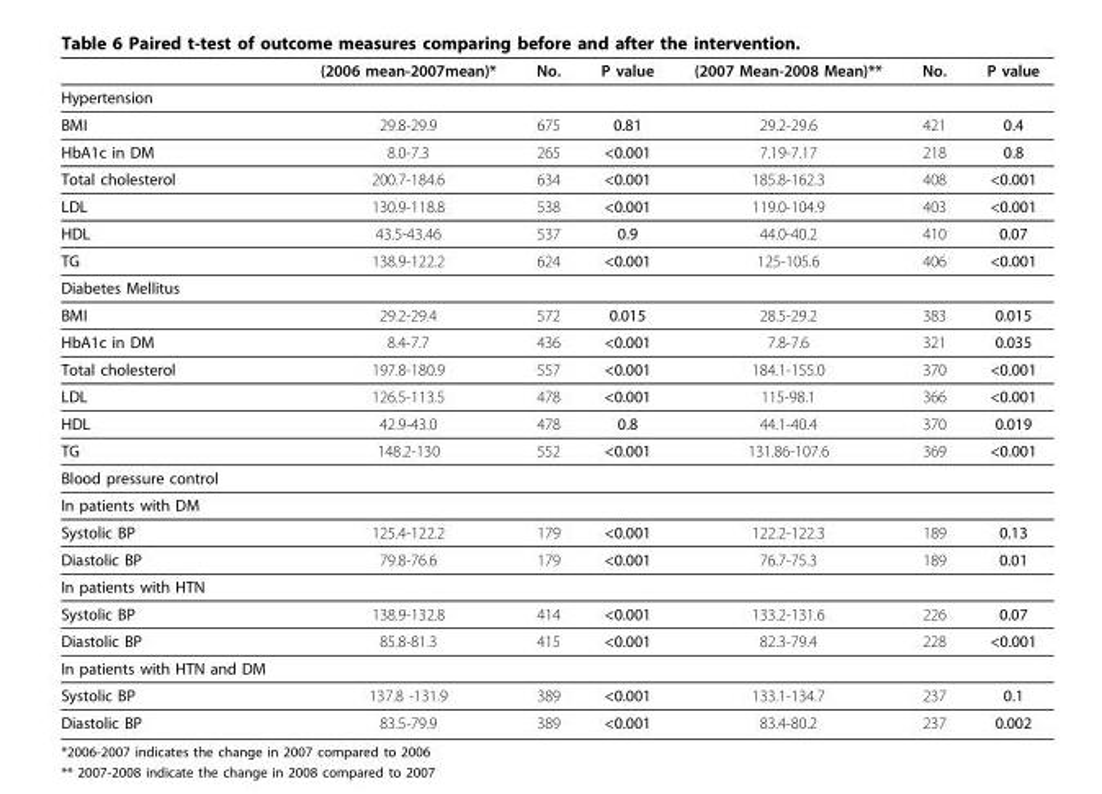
<table><thead><tr><td></td><td>(2006 mean-2007mean)*</td><td>No.</td><td>P value</td><td>(2007 Mean-2008 Mean)**</td><td>No.</td><td>P value</td></tr></thead><tbody><tr><td colspan="7">Hypertension</td></tr><tr><td>BMI</td><td>29.8-29.9</td><td>675</td><td>0.81</td><td>29.2-29.6</td><td>421</td><td>0.4</td></tr><tr><td>HbA1c in DM</td><td>8.0-7.3</td><td>265</td><td>&lt;0.001</td><td>7.19-7.17</td><td>218</td><td>0.8</td></tr><tr><td>Total cholesterol</td><td>200.7-184.6</td><td>634</td><td>&lt;0.001</td><td>185.8-162.3</td><td>408</td><td>&lt;0.001</td></tr><tr><td>LDL</td><td>130.9-118.8</td><td>538</td><td>&lt;0.001</td><td>119.0-104.9</td><td>403</td><td>&lt;0.001</td></tr><tr><td>HDL</td><td>43.5-43.46</td><td>537</td><td>0.9</td><td>44.0-40.2</td><td>410</td><td>0.07</td></tr><tr><td>TG</td><td>138.9-122.2</td><td>624</td><td>&lt;0.001</td><td>125-105.6</td><td>406</td><td>&lt;0.001</td></tr><tr><td colspan="7">Diabetes Mellitus</td></tr><tr><td>BMI</td><td>29.2-29.4</td><td>572</td><td>0.015</td><td>28.5-29.2</td><td>383</td><td>0.015</td></tr><tr><td>HbA1c in DM</td><td>8.4-7.7</td><td>436</td><td>&lt;0.001</td><td>7.8-7.6</td><td>321</td><td>0.035</td></tr><tr><td>Total cholesterol</td><td>197.8-180.9</td><td>557</td><td>&lt;0.001</td><td>184.1-155.0</td><td>370</td><td>&lt;0.001</td></tr><tr><td>LDL</td><td>126.5-113.5</td><td>478</td><td>&lt;0.001</td><td>115-98.1</td><td>366</td><td>&lt;0.001</td></tr><tr><td>HDL</td><td>42.9-43.0</td><td>478</td><td>0.8</td><td>44.1-40.4</td><td>370</td><td>0.019</td></tr><tr><td>TG</td><td>148.2-130</td><td>552</td><td>&lt;0.001</td><td>131.86-107.6</td><td>369</td><td>&lt;0.001</td></tr><tr><td colspan="7">Blood pressure control</td></tr><tr><td colspan="7">In patients with DM</td></tr><tr><td>Systolic BP</td><td>125.4-122.2</td><td>179</td><td>&lt;0.001</td><td>122.2-122.3</td><td>189</td><td>0.13</td></tr><tr><td>Diastolic BP</td><td>79.8-76.6</td><td>179</td><td>&lt;0.001</td><td>76.7-75.3</td><td>189</td><td>0.01</td></tr><tr><td colspan="7">In patients with HTN</td></tr><tr><td>Systolic BP</td><td>138.9-132.8</td><td>414</td><td>&lt;0.001</td><td>133.2-131.6</td><td>226</td><td>0.07</td></tr><tr><td>Diastolic BP</td><td>85.8-81.3</td><td>415</td><td>&lt;0.001</td><td>82.3-79.4</td><td>228</td><td>&lt;0.001</td></tr><tr><td colspan="7">In patients with HTN and DM</td></tr><tr><td>Systolic BP</td><td>137.8 -131.9</td><td>389</td><td>&lt;0.001</td><td>133.1-134.7</td><td>237</td><td>0.1</td></tr><tr><td>Diastolic BP</td><td>83.5-79.9</td><td>389</td><td>&lt;0.001</td><td>83.4-80.2</td><td>237</td><td>0.002</td></tr></tbody></table>